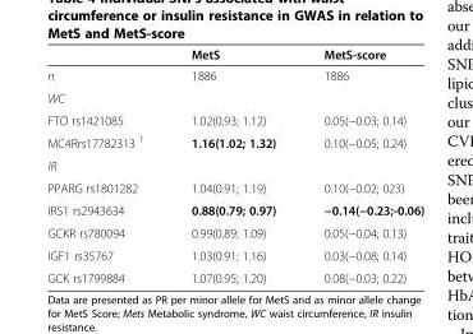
<table><thead><tr><td></td><td>MetS</td><td>MetS-score</td></tr></thead><tbody><tr><td>n</td><td>1886</td><td>1886</td></tr><tr><td colspan="3">WC</td></tr><tr><td>FTO rs1421085</td><td>1.02(0.93; 1.12)</td><td>0.05(−0.03; 0.14)</td></tr><tr><td>MC4Rrs17782313 <sup>1</sup></td><td>1.16(1.02; 1.32)</td><td>0.10(−0.05; 0.24)</td></tr><tr><td colspan="3">IR</td></tr><tr><td>PPARG rs1801282</td><td>1.04(0.91; 1.19)</td><td>0.10(−0.02; 023)</td></tr><tr><td>IRS1 rs2943634</td><td>0.88(0.79; 0.97)</td><td>−0.14(−0.23;-0.06)</td></tr><tr><td>GCKR rs780094</td><td>0.99(0.89; 1.09)</td><td>0.05(−0.04; 0.13)</td></tr><tr><td>IGF1 rs35767</td><td>1.03(0.91; 1.16)</td><td>0.03(−0.08; 0.14)</td></tr><tr><td>GCK rs1799884</td><td>1.07(0.95; 1.20)</td><td>0.08(−0.03; 0.22)</td></tr></tbody></table>